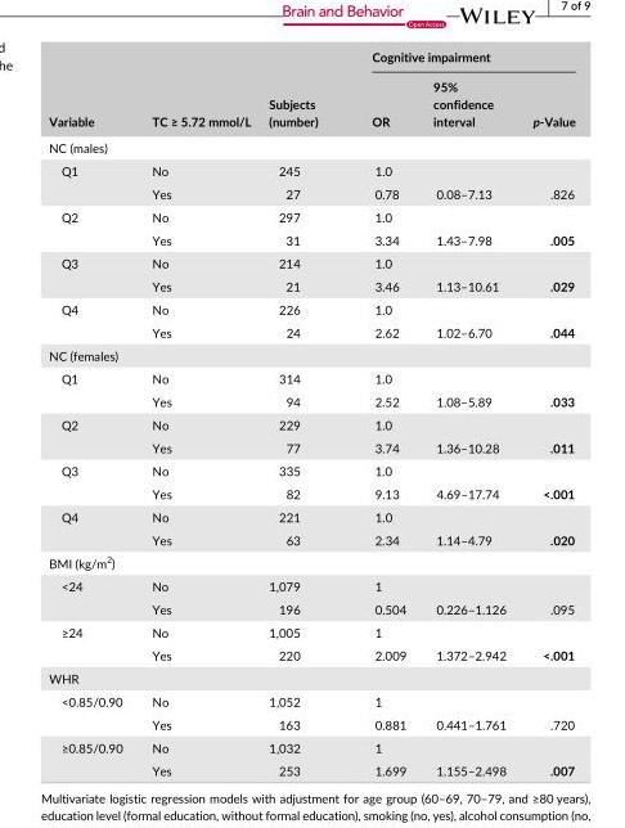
<table><thead><tr><td rowspan="2">Variable</td><td rowspan="2">TC ≥ 5.72 mmol/L</td><td rowspan="2">Subjects (number)</td><td colspan="3">Cognitive impairment</td></tr><tr><td>OR</td><td>95% confidence interval</td><td>p- Value</td></tr></thead><tbody><tr><td colspan="6">NC (males)</td></tr><tr><td rowspan="2">Q1</td><td>No</td><td>245</td><td>1.0</td><td></td><td></td></tr><tr><td>Yes</td><td>27</td><td>0.78</td><td>0.08–7.13</td><td>.826</td></tr><tr><td rowspan="2">Q2</td><td>No</td><td>297</td><td>1.0</td><td></td><td></td></tr><tr><td>Yes</td><td>31</td><td>3.34</td><td>1.43–7.98</td><td>.005</td></tr><tr><td rowspan="2">Q3</td><td>No</td><td>214</td><td>1.0</td><td></td><td></td></tr><tr><td>Yes</td><td>21</td><td>3.46</td><td>1.13–10.61</td><td>.029</td></tr><tr><td rowspan="2">Q4</td><td>No</td><td>226</td><td>1.0</td><td></td><td></td></tr><tr><td>Yes</td><td>24</td><td>2.62</td><td>1.02–6.70</td><td>.044</td></tr><tr><td colspan="6">NC (females)</td></tr><tr><td rowspan="2">Q1</td><td>No</td><td>314</td><td>1.0</td><td></td><td></td></tr><tr><td>Yes</td><td>94</td><td>2.52</td><td>1.08–5.89</td><td>.033</td></tr><tr><td rowspan="2">Q2</td><td>No</td><td>229</td><td>1.0</td><td></td><td></td></tr><tr><td>Yes</td><td>77</td><td>3.74</td><td>1.36–10.28</td><td>.011</td></tr><tr><td rowspan="2">Q3</td><td>No</td><td>335</td><td>1.0</td><td></td><td></td></tr><tr><td>Yes</td><td>82</td><td>9.13</td><td>4.69–17.74</td><td>&lt;.001</td></tr><tr><td rowspan="2">Q4</td><td>No</td><td>221</td><td>1.0</td><td></td><td></td></tr><tr><td>Yes</td><td>63</td><td>2.34</td><td>1.14–4.79</td><td>.020</td></tr><tr><td colspan="6">BMI (kg/m<sup>2</sup>)</td></tr><tr><td rowspan="2">&lt;24</td><td>No</td><td>1,079</td><td>1</td><td></td><td></td></tr><tr><td>Yes</td><td>196</td><td>0.504</td><td>0.226–1.126</td><td>.095</td></tr><tr><td rowspan="2">≥24</td><td>No</td><td>1,005</td><td>1</td><td></td><td></td></tr><tr><td>Yes</td><td>220</td><td>2.009</td><td>1.372–2.942</td><td>&lt;.001</td></tr><tr><td colspan="6">WHR</td></tr><tr><td rowspan="2">&lt;0.85/0.90</td><td>No</td><td>1,052</td><td>1</td><td></td><td></td></tr><tr><td>Yes</td><td>163</td><td>0.881</td><td>0.441–1.761</td><td>.720</td></tr><tr><td rowspan="2">≥0.85/0.90</td><td>No</td><td>1,032</td><td>1</td><td></td><td></td></tr><tr><td>Yes</td><td>253</td><td>1.699</td><td>1.155–2.498</td><td>.007</td></tr></tbody></table>